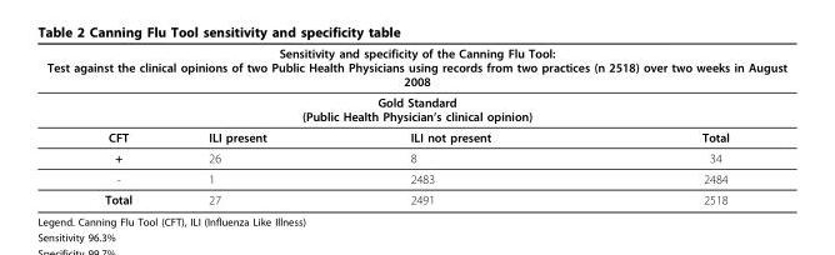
<table><thead><tr><td rowspan="2" colspan="4">Sensitivity and specificity of the Canning Flu Tool: Test against the clinical opinions of two Public Health Physicians using records from two practices (n 2518) over two weeks in August 2008 Gold Standard (Public Health Physician’s clinical opinion)</td></tr><tr></tr><tr><td>CFT</td><td>ILI present</td><td>ILI not present</td><td>Total</td></tr></thead><tbody><tr><td>+</td><td>26</td><td>8</td><td>34</td></tr><tr><td>-</td><td>1</td><td>2483</td><td>2484</td></tr><tr><td>Total</td><td>27</td><td>2491</td><td>2518</td></tr></tbody></table>